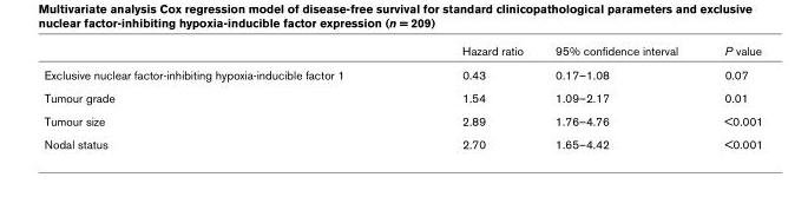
<table><thead><tr><td></td><td>Hazard ratio</td><td>95% confidence interval</td><td>P value</td></tr></thead><tbody><tr><td>Exclusive nuclear factor-inhibiting hypoxia-inducible factor 1</td><td>0.43</td><td>0.17–1.08</td><td>0.07</td></tr><tr><td>Tumour grade</td><td>1.54</td><td>1.09–2.17</td><td>0.01</td></tr><tr><td>Tumour size</td><td>2.89</td><td>1.76–4.76</td><td>&lt;0.001</td></tr><tr><td>Nodal status</td><td>2.70</td><td>1.65–4.42</td><td>&lt;0.001</td></tr></tbody></table>